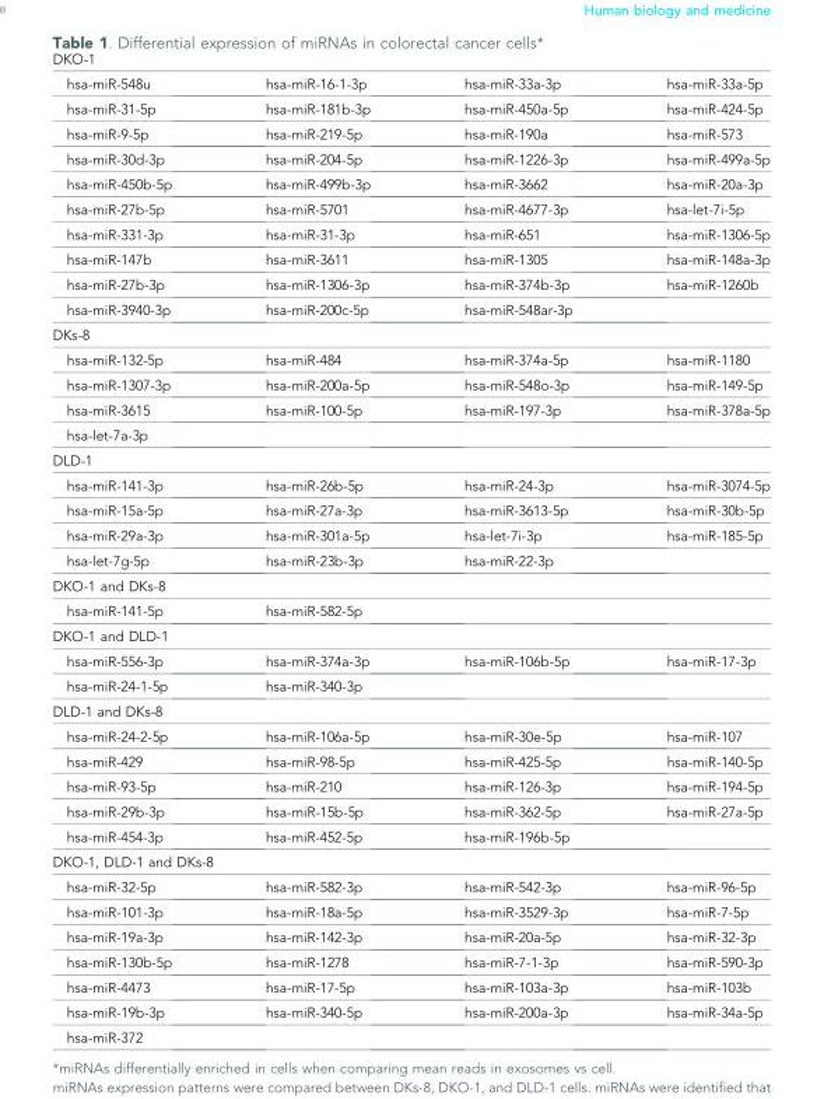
<table><tbody><tr><td colspan="4">DKO-1</td></tr><tr><td>hsa-miR-548u</td><td>hsa-miR-16-1-3p</td><td>hsa-miR-33a-3p</td><td>hsa-miR-33a-5p</td></tr><tr><td>hsa-miR-31-5p</td><td>hsa-miR-181b-3p</td><td>hsa-miR-450a-5p</td><td>hsa-miR-424-5p</td></tr><tr><td>hsa-miR-9-5p</td><td>hsa-miR-219-5p</td><td>hsa-miR-190a</td><td>hsa-miR-573</td></tr><tr><td>hsa-miR-30d-3p</td><td>hsa-miR-204-5p</td><td>hsa-miR-1226-3p</td><td>hsa-miR-499a-5p</td></tr><tr><td>hsa-miR-450b-5p</td><td>hsa-miR-499b-3p</td><td>hsa-miR-3662</td><td>hsa-miR-20a-3p</td></tr><tr><td>hsa-miR-27b-5p</td><td>hsa-miR-5701</td><td>hsa-miR-4677-3p</td><td>hsa-let-7i-5p</td></tr><tr><td>hsa-miR-331-3p</td><td>hsa-miR-31-3p</td><td>hsa-miR-651</td><td>hsa-miR-1306-5p</td></tr><tr><td>hsa-miR-147b</td><td>hsa-miR-3611</td><td>hsa-miR-1305</td><td>hsa-miR-148a-3p</td></tr><tr><td>hsa-miR-27b-3p</td><td>hsa-miR-1306-3p</td><td>hsa-miR-374b-3p</td><td>hsa-miR-1260b</td></tr><tr><td>hsa-miR-3940-3p</td><td>hsa-miR-200c-5p</td><td>hsa-miR-548ar-3p</td><td></td></tr><tr><td colspan="4">DKs-8</td></tr><tr><td>hsa-miR-132-5p</td><td>hsa-miR-484</td><td>hsa-miR-374a-5p</td><td>hsa-miR-1180</td></tr><tr><td>hsa-miR-1307-3p</td><td>hsa-miR-200a-5p</td><td>hsa-miR-548o-3p</td><td>hsa-miR-149-5p</td></tr><tr><td>hsa-miR-3615</td><td>hsa-miR-100-5p</td><td>hsa-miR-197-3p</td><td>hsa-miR-378a-5p</td></tr><tr><td colspan="4">hsa-let-7a-3p</td></tr><tr><td colspan="4">DLD-1</td></tr><tr><td>hsa-miR-141-3p</td><td>hsa-miR-26b-5p</td><td>hsa-miR-24-3p</td><td>hsa-miR-3074-5p</td></tr><tr><td>hsa-miR-15a-5p</td><td>hsa-miR-27a-3p</td><td>hsa-miR-3613-5p</td><td>hsa-miR-30b-5p</td></tr><tr><td>hsa-miR-29a-3p</td><td>hsa-miR-301a-5p</td><td>hsa-let-7i-3p</td><td>hsa-miR-185-5p</td></tr><tr><td>hsa-let-7g-5p</td><td>hsa-miR-23b-3p</td><td>hsa-miR-22-3p</td><td></td></tr><tr><td colspan="4">DKO-1 and DKs-8</td></tr><tr><td>hsa-miR-141-5p</td><td>hsa-miR-582-5p</td><td></td><td></td></tr><tr><td colspan="4">DKO-1 and DLD-1</td></tr><tr><td>hsa-miR-556-3p</td><td>hsa-miR-374a-3p</td><td>hsa-miR-106b-5p</td><td>hsa-miR-17-3p</td></tr><tr><td>hsa-miR-24-1-5p</td><td>hsa-miR-340-3p</td><td></td><td></td></tr><tr><td colspan="4">DLD-1 and DKs-8</td></tr><tr><td>hsa-miR-24-2-5p</td><td>hsa-miR-106a-5p</td><td>hsa-miR-30e-5p</td><td>hsa-miR-107</td></tr><tr><td>hsa-miR-429</td><td>hsa-miR-98-5p</td><td>hsa-miR-425-5p</td><td>hsa-miR-140-5p</td></tr><tr><td>hsa-miR-93-5p</td><td>hsa-miR-210</td><td>hsa-miR-126-3p</td><td>hsa-miR-194-5p</td></tr><tr><td>hsa-miR-29b-3p</td><td>hsa-miR-15b-5p</td><td>hsa-miR-362-5p</td><td>hsa-miR-27a-5p</td></tr><tr><td>hsa-miR-454-3p</td><td>hsa-miR-452-5p</td><td>hsa-miR-196b-5p</td><td></td></tr><tr><td colspan="4">DKO-1, DLD-1 and DKs-8</td></tr><tr><td>hsa-miR-32-5p</td><td>hsa-miR-582-3p</td><td>hsa-miR-542-3p</td><td>hsa-miR-96-5p</td></tr><tr><td>hsa-miR-101-3p</td><td>hsa-miR-18a-5p</td><td>hsa-miR-3529-3p</td><td>hsa-miR-7-5p</td></tr><tr><td>hsa-miR-19a-3p</td><td>hsa-miR-142-3p</td><td>hsa-miR-20a-5p</td><td>hsa-miR-32-3p</td></tr><tr><td>hsa-miR-130b-5p</td><td>hsa-miR-1278</td><td>hsa-miR-7-1-3p</td><td>hsa-miR-590-3p</td></tr><tr><td>hsa-miR-4473</td><td>hsa-miR-17-5p</td><td>hsa-miR-103a-3p</td><td>hsa-miR-103b</td></tr><tr><td>hsa-miR-19b-3p</td><td>hsa-miR-340-5p</td><td>hsa-miR-200a-3p</td><td>hsa-miR-34a-5p</td></tr><tr><td>hsa-miR-372</td><td></td><td></td><td></td></tr></tbody></table>